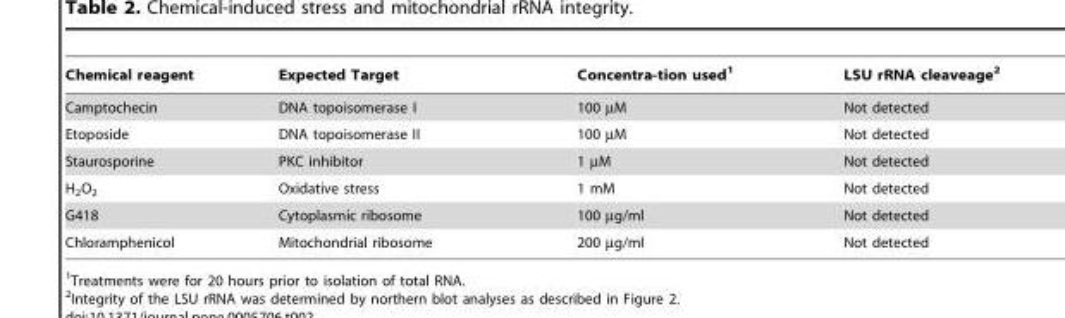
<table><thead><tr><td>Chemical reagent</td><td>Expected Target</td><td>Concentra-tion used<sup>1</sup></td><td>LSU rRNA cleaveage<sup>2</sup></td></tr></thead><tbody><tr><td>Camptochecin</td><td>DNA topoisomerase I</td><td>100 µM</td><td>Not detected</td></tr><tr><td>Etoposide</td><td>DNA topoisomerase II</td><td>100 µM</td><td>Not detected</td></tr><tr><td>Staurosporine</td><td>PKC inhibitor</td><td>1 µM</td><td>Not detected</td></tr><tr><td>H<sub>2</sub>O<sub>2</sub></td><td>Oxidative stress</td><td>1 mM</td><td>Not detected</td></tr><tr><td>G418</td><td>Cytoplasmic ribosome</td><td>100 µg/ml</td><td>Not detected</td></tr><tr><td>Chloramphenicol</td><td>Mitochondrial ribosome</td><td>200 µg/ml</td><td>Not detected</td></tr></tbody></table>